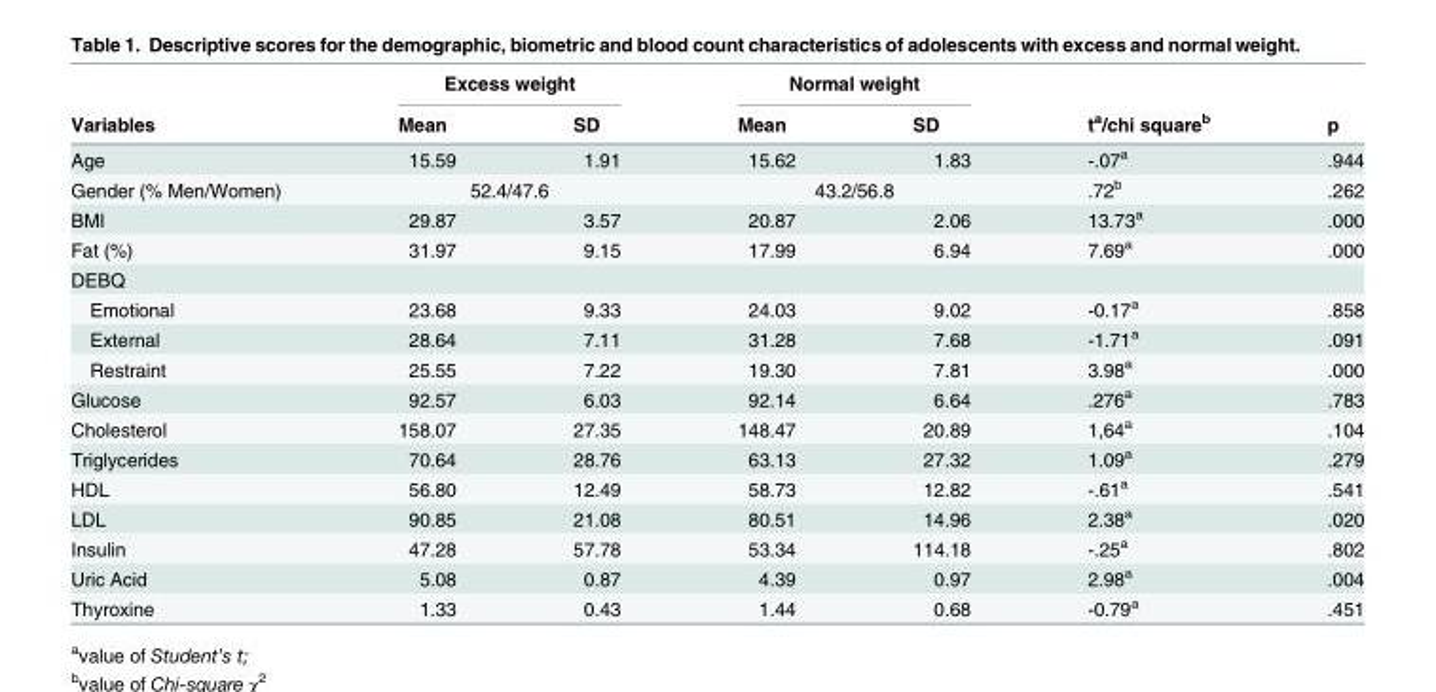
<table><thead><tr><td rowspan="2">Variables</td><td colspan="2">Excess weight</td><td colspan="2">Normal weight</td><td rowspan="2">t<sup>a</sup>/chi square<sup>b</sup></td><td rowspan="2">p</td></tr><tr><td>Mean</td><td>SD</td><td>Mean</td><td>SD</td></tr></thead><tbody><tr><td>Age</td><td>15.59</td><td>1.91</td><td>15.62</td><td>1.83</td><td>-.07<sup>a</sup></td><td>.944</td></tr><tr><td>Gender (% Men/Women)</td><td colspan="2">52.4/47.6</td><td colspan="2">43.2/56.8</td><td>.72<sup>b</sup></td><td>.262</td></tr><tr><td>BMI</td><td>29.87</td><td>3.57</td><td>20.87</td><td>2.06</td><td>13.73<sup>a</sup></td><td>.000</td></tr><tr><td>Fat (%)</td><td>31.97</td><td>9.15</td><td>17.99</td><td>6.94</td><td>7.69<sup>a</sup></td><td>.000</td></tr><tr><td colspan="7">DEBQ</td></tr><tr><td>Emotional</td><td>23.68</td><td>9.33</td><td>24.03</td><td>9.02</td><td>-0.17<sup>a</sup></td><td>.858</td></tr><tr><td>External</td><td>28.64</td><td>7.11</td><td>31.28</td><td>7.68</td><td>-1.71<sup>a</sup></td><td>.091</td></tr><tr><td>Restraint</td><td>25.55</td><td>7.22</td><td>19.30</td><td>7.81</td><td>3.98<sup>a</sup></td><td>.000</td></tr><tr><td>Glucose</td><td>92.57</td><td>6.03</td><td>92.14</td><td>6.64</td><td>.276<sup>a</sup></td><td>.783</td></tr><tr><td>Cholesterol</td><td>158.07</td><td>27.35</td><td>148.47</td><td>20.89</td><td>1,64<sup>a</sup></td><td>.104</td></tr><tr><td>Triglycerides</td><td>70.64</td><td>28.76</td><td>63.13</td><td>27.32</td><td>1.09<sup>a</sup></td><td>.279</td></tr><tr><td>HDL</td><td>56.80</td><td>12.49</td><td>58.73</td><td>12.82</td><td>-.61<sup>a</sup></td><td>.541</td></tr><tr><td>LDL</td><td>90.85</td><td>21.08</td><td>80.51</td><td>14.96</td><td>2.38<sup>a</sup></td><td>.020</td></tr><tr><td>Insulin</td><td>47.28</td><td>57.78</td><td>53.34</td><td>114.18</td><td>-.25<sup>a</sup></td><td>.802</td></tr><tr><td>Uric Acid</td><td>5.08</td><td>0.87</td><td>4.39</td><td>0.97</td><td>2.98<sup>a</sup></td><td>.004</td></tr><tr><td>Thyroxine</td><td>1.33</td><td>0.43</td><td>1.44</td><td>0.68</td><td>-0.79<sup>a</sup></td><td>.451</td></tr></tbody></table>